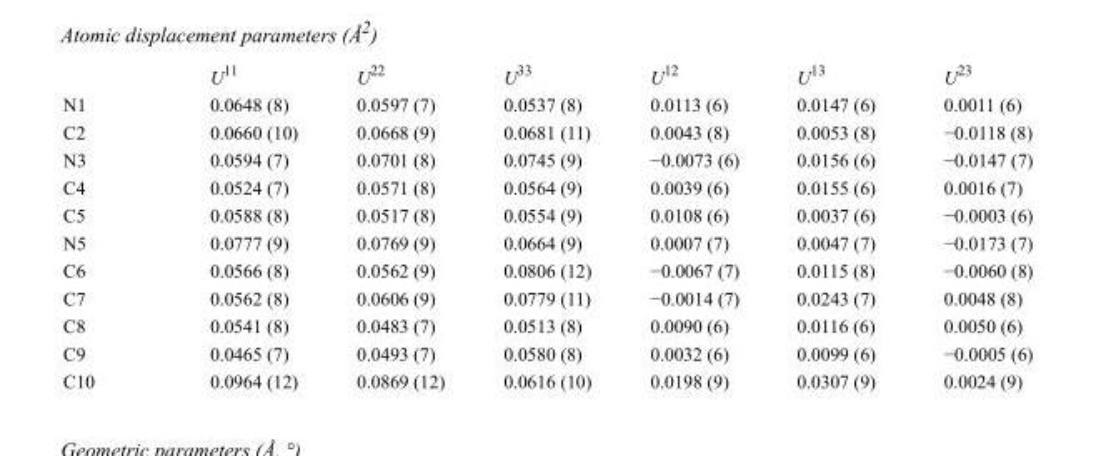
<table><thead><tr><td></td><td>U<sup>11</sup></td><td>U<sup>22</sup></td><td>U<sup>33</sup></td><td>U<sup>12</sup></td><td>U<sup>13</sup></td><td>U<sup>23</sup></td></tr></thead><tbody><tr><td>N1</td><td>0.0648 (8)</td><td>0.0597 (7)</td><td>0.0537 (8)</td><td>0.0113 (6)</td><td>0.0147 (6)</td><td>0.0011 (6)</td></tr><tr><td>C2</td><td>0.0660 (10)</td><td>0.0668 (9)</td><td>0.0681 (11)</td><td>0.0043 (8)</td><td>0.0053 (8)</td><td>−0.0118 (8)</td></tr><tr><td>N3</td><td>0.0594 (7)</td><td>0.0701 (8)</td><td>0.0745 (9)</td><td>−0.0073 (6)</td><td>0.0156 (6)</td><td>−0.0147 (7)</td></tr><tr><td>C4</td><td>0.0524 (7)</td><td>0.0571 (8)</td><td>0.0564 (9)</td><td>0.0039 (6)</td><td>0.0155 (6)</td><td>0.0016 (7)</td></tr><tr><td>C5</td><td>0.0588 (8)</td><td>0.0517 (8)</td><td>0.0554 (9)</td><td>0.0108 (6)</td><td>0.0037 (6)</td><td>−0.0003 (6)</td></tr><tr><td>N5</td><td>0.0777 (9)</td><td>0.0769 (9)</td><td>0.0664 (9)</td><td>0.0007 (7)</td><td>0.0047 (7)</td><td>−0.0173 (7)</td></tr><tr><td>C6</td><td>0.0566 (8)</td><td>0.0562 (9)</td><td>0.0806 (12)</td><td>−0.0067 (7)</td><td>0.0115 (8)</td><td>−0.0060 (8)</td></tr><tr><td>C7</td><td>0.0562 (8)</td><td>0.0606 (9)</td><td>0.0779 (11)</td><td>−0.0014 (7)</td><td>0.0243 (7)</td><td>0.0048 (8)</td></tr><tr><td>C8</td><td>0.0541 (8)</td><td>0.0483 (7)</td><td>0.0513 (8)</td><td>0.0090 (6)</td><td>0.0116 (6)</td><td>0.0050 (6)</td></tr><tr><td>C9</td><td>0.0465 (7)</td><td>0.0493 (7)</td><td>0.0580 (8)</td><td>0.0032 (6)</td><td>0.0099 (6)</td><td>−0.0005 (6)</td></tr><tr><td>C10</td><td>0.0964 (12)</td><td>0.0869 (12)</td><td>0.0616 (10)</td><td>0.0198 (9)</td><td>0.0307 (9)</td><td>0.0024 (9)</td></tr></tbody></table>